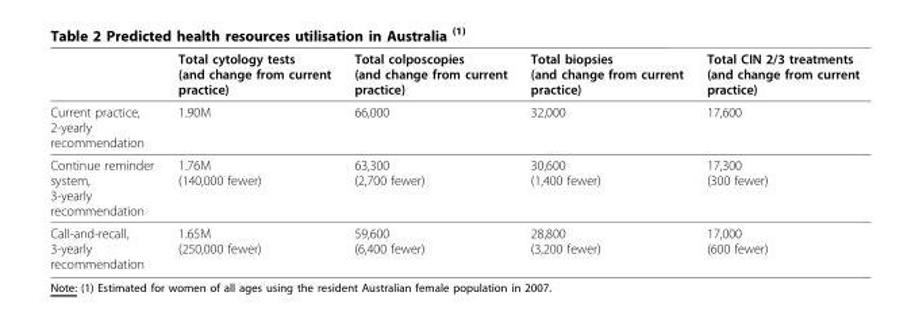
<table><thead><tr><td></td><td>Total cytology tests (and change from current practice)</td><td>Total colposcopies (and change from current practice)</td><td>Total biopsies (and change from current practice)</td><td>Total CIN 2/3 treatments (and change from current practice)</td></tr></thead><tbody><tr><td>Current practice, 2-yearly recommendation</td><td>1.90M</td><td>66,000</td><td>32,000</td><td>17,600</td></tr><tr><td>Continue reminder system, 3-yearly recommendation</td><td>1.76M (140,000 fewer)</td><td>63,300 (2,700 fewer)</td><td>30,600 (1,400 fewer)</td><td>17,300 (300 fewer)</td></tr><tr><td>Call-and-recall, 3-yearly recommendation</td><td>1.65M (250,000 fewer)</td><td>59,600 (6,400 fewer)</td><td>28,800 (3,200 fewer)</td><td>17,000 (600 fewer)</td></tr></tbody></table>